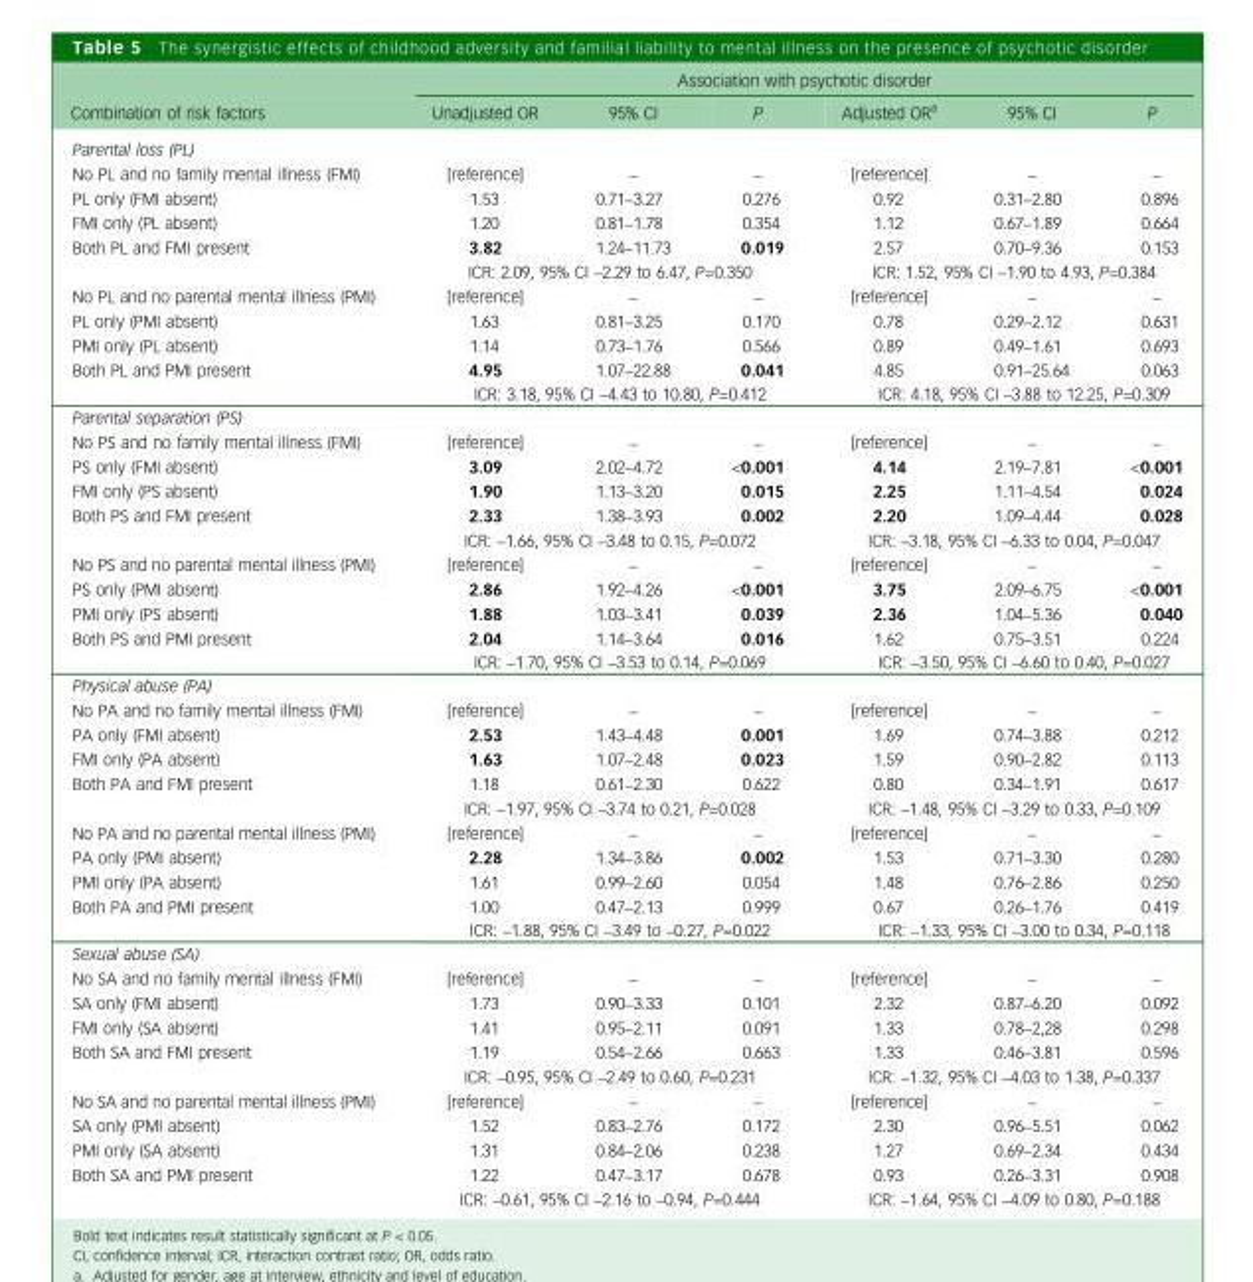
<table><thead><tr><td rowspan="2">Combination of risk factors</td><td colspan="6">Association with psychotic disorder</td></tr><tr><td>Unadjusted OR</td><td>95% CI</td><td>P</td><td>Adjusted OR<sup>a</sup></td><td>95% CI</td><td>P</td></tr></thead><tbody><tr><td colspan="7">Parental loss (PL)</td></tr><tr><td>No PL and no family mental illness (FMI)</td><td>[reference]</td><td>–</td><td>–</td><td>[reference]</td><td>–</td><td>–</td></tr><tr><td>PL only (FMI absent)</td><td>1.53</td><td>0.71–3.27</td><td>0.276</td><td>0.92</td><td>0.31–2.80</td><td>0.896</td></tr><tr><td>FMI only (PL absent)</td><td>1.20</td><td>0.81–1.78</td><td>0.354</td><td>1.12</td><td>0.67–1.89</td><td>0.664</td></tr><tr><td rowspan="2">Both PL and FMI present</td><td>3.82</td><td>1.24–11.73</td><td>0.019</td><td>2.57</td><td>0.70–9.36</td><td>0.153</td></tr><tr><td colspan="3">ICR: 2.09, 95% CI –2.29 to 6.47, P=0.350</td><td colspan="3">ICR: 1.52, 95% CI –1.90 to 4.93, P=0.384</td></tr><tr><td>No PL and no parental mental illness (PMI)</td><td>[reference]</td><td>–</td><td>–</td><td>[reference]</td><td>–</td><td>–</td></tr><tr><td>PL only (PMI absent)</td><td>1.63</td><td>0.81–3.25</td><td>0.170</td><td>0.78</td><td>0.29–2.12</td><td>0.631</td></tr><tr><td>PMI only (PL absent)</td><td>1.14</td><td>0.73–1.76</td><td>0.566</td><td>0.89</td><td>0.49–1.61</td><td>0.693</td></tr><tr><td rowspan="2">Both PL and PMI present</td><td>4.95</td><td>1.07–22.88</td><td>0.041</td><td>4.85</td><td>0.91–25.64</td><td>0.063</td></tr><tr><td colspan="3">ICR: 3.18, 95% CI –4.43 to 10.80, P=0.412</td><td colspan="3">ICR: 4.18, 95% CI –3.88 to 12.25, P=0.309</td></tr><tr><td colspan="7">Parental separation (PS)</td></tr><tr><td>No PS and no family mental illness (FMI)</td><td>[reference]</td><td>–</td><td>–</td><td>[reference]</td><td>–</td><td>–</td></tr><tr><td>PS only (FMI absent)</td><td>3.09</td><td>2.02–4.72</td><td>&lt;0.001</td><td>4.14</td><td>2.19–7.81</td><td>&lt;0.001</td></tr><tr><td>FMI only (PS absent)</td><td>1.90</td><td>1.13–3.20</td><td>0.015</td><td>2.25</td><td>1.11–4.54</td><td>0.024</td></tr><tr><td rowspan="2">Both PS and FMI present</td><td>2.33</td><td>1.38–3.93</td><td>0.002</td><td>2.20</td><td>1.09–4.44</td><td>0.028</td></tr><tr><td colspan="3">ICR: –1.66, 95% CI –3.48 to 0.15, P=0.072</td><td colspan="3">ICR: –3.18, 95% CI –6.33 to 0.04, P=0.047</td></tr><tr><td>No PS and no parental mental illness (PMI)</td><td>[reference]</td><td>–</td><td>–</td><td>[reference]</td><td>–</td><td>–</td></tr><tr><td>PS only (PMI absent)</td><td>2.86</td><td>1.92–4.26</td><td>&lt;0.001</td><td>3.75</td><td>2.09–6.75</td><td>&lt;0.001</td></tr><tr><td>PMI only (PS absent)</td><td>1.88</td><td>1.03–3.41</td><td>0.039</td><td>2.36</td><td>1.04–5.36</td><td>0.040</td></tr><tr><td rowspan="2">Both PS and PMI present</td><td>2.04</td><td>1.14–3.64</td><td>0.016</td><td>1.62</td><td>0.75–3.51</td><td>0.224</td></tr><tr><td colspan="3">ICR: –1.70, 95% CI –3.53 to 0.14, P=0.069</td><td colspan="3">ICR: –3.50, 95% CI –6.60 to 0.40, P=0.027</td></tr><tr><td colspan="7">Physical abuse (PA)</td></tr><tr><td>No PA and no family mental illness (FMI)</td><td>[reference]</td><td>–</td><td>–</td><td>[reference]</td><td>–</td><td>–</td></tr><tr><td>PA only (FMI absent)</td><td>2.53</td><td>1.43–4.48</td><td>0.001</td><td>1.69</td><td>0.74–3.88</td><td>0.212</td></tr><tr><td>FMI only (PA absent)</td><td>1.63</td><td>1.07–2.48</td><td>0.023</td><td>1.59</td><td>0.90–2.82</td><td>0.113</td></tr><tr><td rowspan="2">Both PA and FMI present</td><td>1.18</td><td>0.61–2.30</td><td>0.622</td><td>0.80</td><td>0.34–1.91</td><td>0.617</td></tr><tr><td colspan="3">ICR: –1.97, 95% CI –3.74 to 0.21, P=0.028</td><td colspan="3">ICR: –1.48, 95% CI –3.29 to 0.33, P=0.109</td></tr><tr><td>No PA and no parental mental illness (PMI)</td><td>[reference]</td><td>–</td><td>–</td><td>[reference]</td><td>–</td><td>–</td></tr><tr><td>PA only (PMI absent)</td><td>2.28</td><td>1.34–3.86</td><td>0.002</td><td>1.53</td><td>0.71–3.30</td><td>0.280</td></tr><tr><td>PMI only (PA absent)</td><td>1.61</td><td>0.99–2.60</td><td>0.054</td><td>1.48</td><td>0.76–2.86</td><td>0.250</td></tr><tr><td rowspan="2">Both PA and PMI present</td><td>1.00</td><td>0.47–2.13</td><td>0.999</td><td>0.67</td><td>0.26–1.76</td><td>0.419</td></tr><tr><td colspan="3">ICR: –1.88, 95% CI –3.49 to –0.27, P=0.022</td><td colspan="3">ICR: –1.33, 95% CI –3.00 to 0.34, P=0.118</td></tr><tr><td colspan="7">Sexual abuse (SA)</td></tr><tr><td>No SA and no family mental illness (FMI)</td><td>[reference]</td><td>–</td><td>–</td><td>[reference]</td><td>–</td><td>–</td></tr><tr><td>SA only (FMI absent)</td><td>1.73</td><td>0.90–3.33</td><td>0.101</td><td>2.32</td><td>0.87–6.20</td><td>0.092</td></tr><tr><td>FMI only (SA absent)</td><td>1.41</td><td>0.95–2.11</td><td>0.091</td><td>1.33</td><td>0.78–2,28</td><td>0.298</td></tr><tr><td rowspan="2">Both SA and FMI present</td><td>1.19</td><td>0.54–2.66</td><td>0.663</td><td>1.33</td><td>0.46–3.81</td><td>0.596</td></tr><tr><td colspan="3">ICR: –0.95, 95% CI –2.49 to 0.60, P=0.231</td><td colspan="3">ICR: –1.32, 95% CI –4.03 to 1.38, P=0.337</td></tr><tr><td>No SA and no parental mental illness (PMI)</td><td>[reference]</td><td>–</td><td>–</td><td>[reference]</td><td>–</td><td>–</td></tr><tr><td>SA only (PMI absent)</td><td>1.52</td><td>0.83–2.76</td><td>0.172</td><td>2.30</td><td>0.96–5.51</td><td>0.062</td></tr><tr><td>PMI only (SA absent)</td><td>1.31</td><td>0.84–2.06</td><td>0.238</td><td>1.27</td><td>0.69–2.34</td><td>0.434</td></tr><tr><td rowspan="2">Both SA and PMI present</td><td>1.22</td><td>0.47–3.17</td><td>0.678</td><td>0.93</td><td>0.26–3.31</td><td>0.908</td></tr><tr><td colspan="3">ICR: –0.61, 95% CI –2.16 to –0.94, P=0.444</td><td colspan="3">ICR: –1.64, 95% CI –4.09 to 0.80, P=0.188</td></tr></tbody></table>